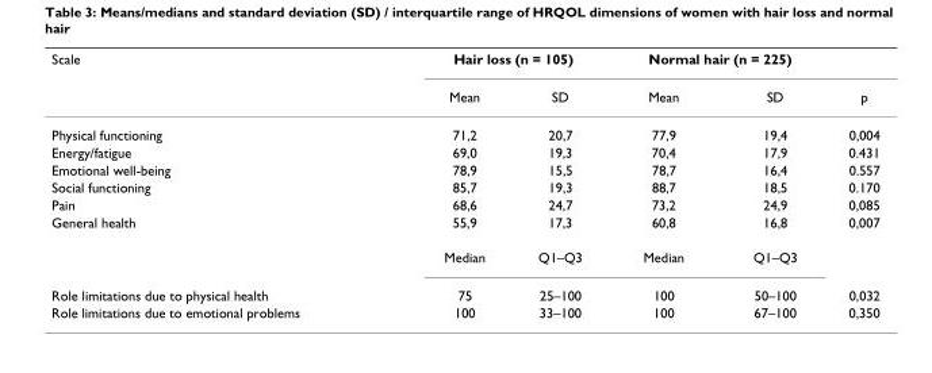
<table><thead><tr><td rowspan="2">Scale</td><td colspan="2">Hair loss (n = 105)</td><td colspan="2">Normal hair (n = 225)</td><td rowspan="2">p</td></tr><tr><td>Mean</td><td>SD</td><td>Mean</td><td>SD</td></tr></thead><tbody><tr><td>Physical functioning</td><td>71,2</td><td>20,7</td><td>77,9</td><td>19,4</td><td>0,004</td></tr><tr><td>Energy/fatigue</td><td>69,0</td><td>19,3</td><td>70,4</td><td>17,9</td><td>0.431</td></tr><tr><td>Emotional well-being</td><td>78,9</td><td>15,5</td><td>78,7</td><td>16,4</td><td>0.557</td></tr><tr><td>Social functioning</td><td>85,7</td><td>19,3</td><td>88,7</td><td>18,5</td><td>0.170</td></tr><tr><td>Pain</td><td>68,6</td><td>24,7</td><td>73,2</td><td>24,9</td><td>0,085</td></tr><tr><td rowspan="2">General health</td><td>55,9</td><td>17,3</td><td>60,8</td><td>16,8</td><td>0,007</td></tr><tr><td>Median</td><td>Q1–Q3</td><td>Median</td><td>Q1–Q3</td><td></td></tr><tr><td>Role limitations due to physical health</td><td>75</td><td>25–100</td><td>100</td><td>50–100</td><td>0,032</td></tr><tr><td>Role limitations due to emotional problems</td><td>100</td><td>33–100</td><td>100</td><td>67–100</td><td>0,350</td></tr></tbody></table>